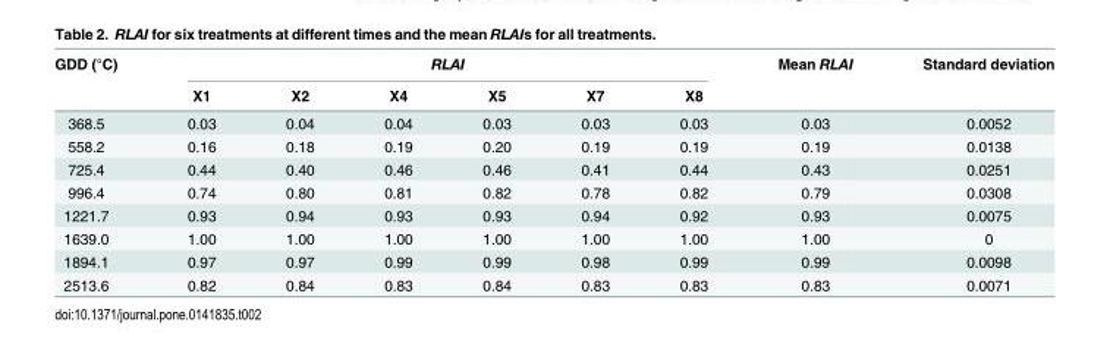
<table><thead><tr><td rowspan="2">GDD (°C)</td><td colspan="6">RLAI</td><td rowspan="2">Mean RLAI</td><td rowspan="2">Standard deviation</td></tr><tr><td>X1</td><td>X2</td><td>X4</td><td>X5</td><td>X7</td><td>X8</td></tr></thead><tbody><tr><td>368.5</td><td>0.03</td><td>0.04</td><td>0.04</td><td>0.03</td><td>0.03</td><td>0.03</td><td>0.03</td><td>0.0052</td></tr><tr><td>558.2</td><td>0.16</td><td>0.18</td><td>0.19</td><td>0.20</td><td>0.19</td><td>0.19</td><td>0.19</td><td>0.0138</td></tr><tr><td>725.4</td><td>0.44</td><td>0.40</td><td>0.46</td><td>0.46</td><td>0.41</td><td>0.44</td><td>0.43</td><td>0.0251</td></tr><tr><td>996.4</td><td>0.74</td><td>0.80</td><td>0.81</td><td>0.82</td><td>0.78</td><td>0.82</td><td>0.79</td><td>0.0308</td></tr><tr><td>1221.7</td><td>0.93</td><td>0.94</td><td>0.93</td><td>0.93</td><td>0.94</td><td>0.92</td><td>0.93</td><td>0.0075</td></tr><tr><td>1639.0</td><td>1.00</td><td>1.00</td><td>1.00</td><td>1.00</td><td>1.00</td><td>1.00</td><td>1.00</td><td>0</td></tr><tr><td>1894.1</td><td>0.97</td><td>0.97</td><td>0.99</td><td>0.99</td><td>0.98</td><td>0.99</td><td>0.99</td><td>0.0098</td></tr><tr><td>2513.6</td><td>0.82</td><td>0.84</td><td>0.83</td><td>0.84</td><td>0.83</td><td>0.83</td><td>0.83</td><td>0.0071</td></tr></tbody></table>